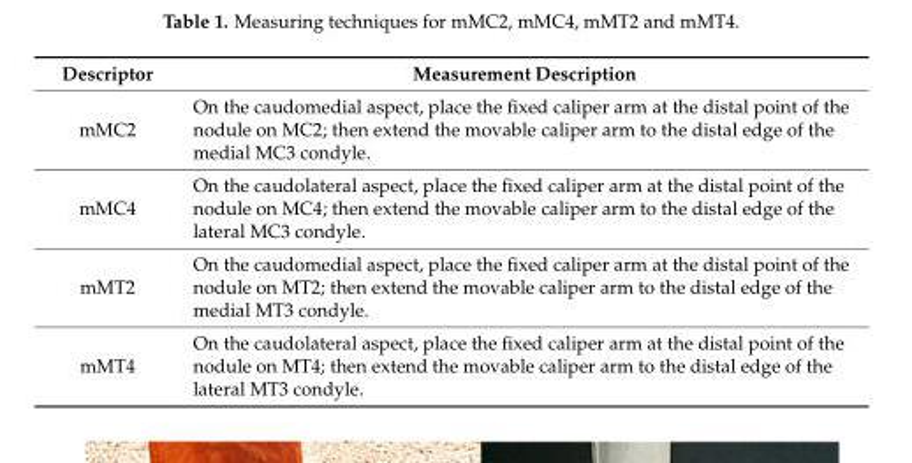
<table><thead><tr><td>Descriptor</td><td>Measurement Description</td></tr></thead><tbody><tr><td>mMC2</td><td>On the caudomedial aspect, place the fixed caliper arm at the distal point of the nodule on MC2; then extend the movable caliper arm to the distal edge of the medial MC3 condyle.</td></tr><tr><td>mMC4</td><td>On the caudolateral aspect, place the fixed caliper arm at the distal point of the nodule on MC4; then extend the movable caliper arm to the distal edge of the lateral MC3 condyle.</td></tr><tr><td>mMT2</td><td>On the caudomedial aspect, place the fixed caliper arm at the distal point of the nodule on MT2; then extend the movable caliper arm to the distal edge of the medial MT3 condyle.</td></tr><tr><td>mMT4</td><td>On the caudolateral aspect, place the fixed caliper arm at the distal point of the nodule on MT4; then extend the movable caliper arm to the distal edge of the lateral MT3 condyle.</td></tr></tbody></table>